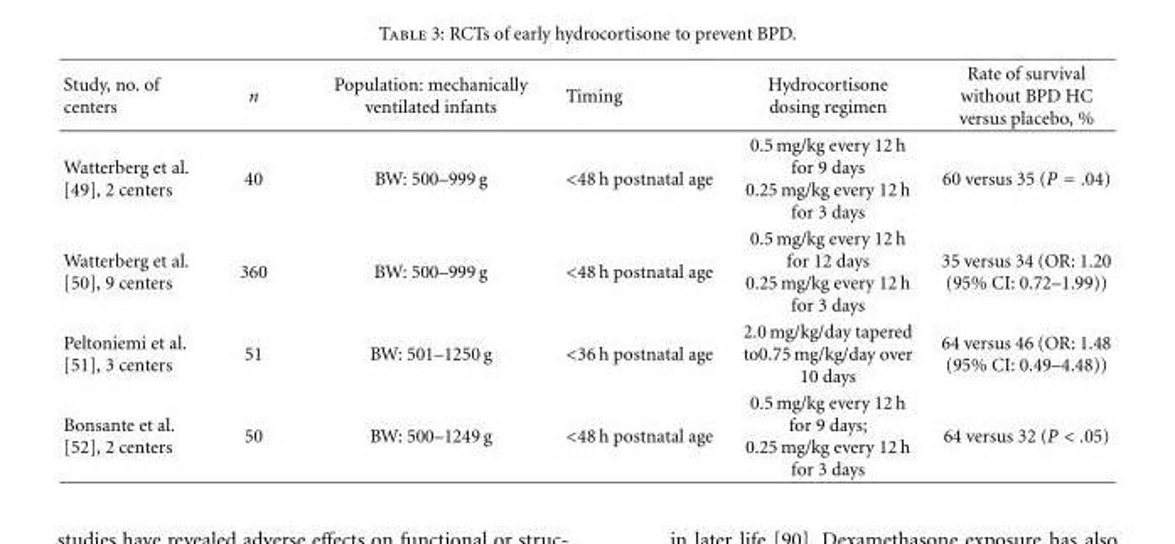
<table><thead><tr><td>Study, no. of centers</td><td>n</td><td>Population: mechanically ventilated infants</td><td>Timing</td><td>Hydrocortisone dosing regimen</td><td>Rate of survival without BPD HC versus placebo, %</td></tr></thead><tbody><tr><td>Watterberg et al. [49], 2 centers</td><td>40</td><td>BW: 500–999 g</td><td>&lt;48 h postnatal age</td><td>0.5 mg/kg every 12 h for 9 days 0.25 mg/kg every 12 h for 3 days</td><td>60 versus 35 (P = .04)</td></tr><tr><td>Watterberg et al. [50], 9 centers</td><td>360</td><td>BW: 500–999 g</td><td>&lt;48 h postnatal age</td><td>0.5 mg/kg every 12 h for 12 days 0.25 mg/kg every 12 h for 3 days</td><td>35 versus 34 (OR: 1.20 (95% CI: 0.72–1.99))</td></tr><tr><td>Peltoniemi et al. [51], 3 centers</td><td>51</td><td>BW: 501–1250 g</td><td>&lt;36 h postnatal age</td><td>2.0 mg/kg/day tapered to0.75 mg/kg/day over 10 days</td><td>64 versus 46 (OR: 1.48 (95% CI: 0.49–4.48))</td></tr><tr><td>Bonsante et al. [52], 2 centers</td><td>50</td><td>BW: 500–1249 g</td><td>&lt;48 h postnatal age</td><td>0.5 mg/kg every 12 h for 9 days; 0.25 mg/kg every 12 h for 3 days</td><td>64 versus 32 (P &lt; .05)</td></tr></tbody></table>